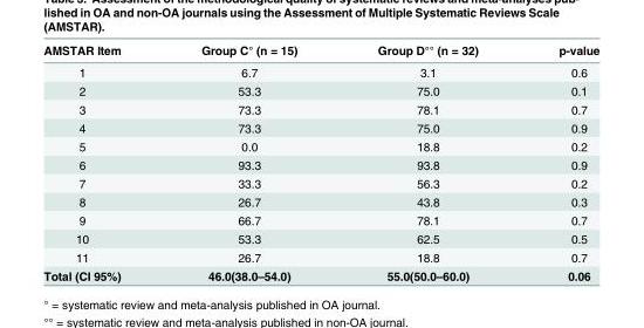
<table><thead><tr><td>AMSTAR Item</td><td>Group C° (n = 15)</td><td>Group D°° (n = 32)</td><td>p-value</td></tr></thead><tbody><tr><td>1</td><td>6.7</td><td>3.1</td><td>0.6</td></tr><tr><td>2</td><td>53.3</td><td>75.0</td><td>0.1</td></tr><tr><td>3</td><td>73.3</td><td>78.1</td><td>0.7</td></tr><tr><td>4</td><td>73.3</td><td>75.0</td><td>0.9</td></tr><tr><td>5</td><td>0.0</td><td>18.8</td><td>0.2</td></tr><tr><td>6</td><td>93.3</td><td>93.8</td><td>0.9</td></tr><tr><td>7</td><td>33.3</td><td>56.3</td><td>0.2</td></tr><tr><td>8</td><td>26.7</td><td>43.8</td><td>0.3</td></tr><tr><td>9</td><td>66.7</td><td>78.1</td><td>0.7</td></tr><tr><td>10</td><td>53.3</td><td>62.5</td><td>0.5</td></tr><tr><td>11</td><td>26.7</td><td>18.8</td><td>0.7</td></tr><tr><td>Total (CI 95%)</td><td>46.0(38.0–54.0)</td><td>55.0(50.0–60.0)</td><td>0.06</td></tr></tbody></table>